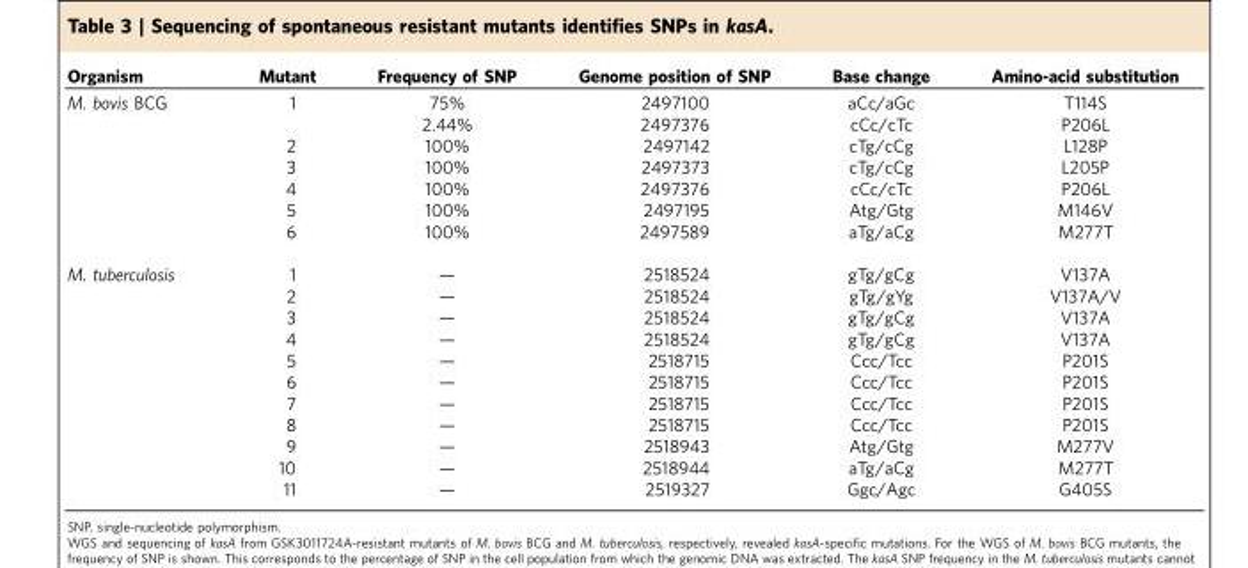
<table><thead><tr><td>Organism</td><td>Mutant</td><td>Frequency of SNP</td><td>Genome position of SNP</td><td>Base change</td><td>Amino-acid substitution</td></tr></thead><tbody><tr><td rowspan="7">M. bovis BCG</td><td>1</td><td>75%</td><td>2497100</td><td>aCc/aGc</td><td>T114S</td></tr><tr><td></td><td>2.44%</td><td>2497376</td><td>cCc/cTc</td><td>P206L</td></tr><tr><td>2</td><td>100%</td><td>2497142</td><td>cTg/cCg</td><td>L128P</td></tr><tr><td>3</td><td>100%</td><td>2497373</td><td>cTg/cCg</td><td>L205P</td></tr><tr><td>4</td><td>100%</td><td>2497376</td><td>cCc/cTc</td><td>P206L</td></tr><tr><td>5</td><td>100%</td><td>2497195</td><td>Atg/Gtg</td><td>M146V</td></tr><tr><td>6</td><td>100%</td><td>2497589</td><td>aTg/aCg</td><td>M277T</td></tr><tr><td rowspan="11">M. tuberculosis</td><td>1</td><td>—</td><td>2518524</td><td>gTg/gCg</td><td>V137A</td></tr><tr><td>2</td><td>—</td><td>2518524</td><td>gTg/gYg</td><td>V137A/V</td></tr><tr><td>3</td><td>—</td><td>2518524</td><td>gTg/gCg</td><td>V137A</td></tr><tr><td>4</td><td>—</td><td>2518524</td><td>gTg/gCg</td><td>V137A</td></tr><tr><td>5</td><td>—</td><td>2518715</td><td>Ccc/Tcc</td><td>P201S</td></tr><tr><td>6</td><td>—</td><td>2518715</td><td>Ccc/Tcc</td><td>P201S</td></tr><tr><td>7</td><td>—</td><td>2518715</td><td>Ccc/Tcc</td><td>P201S</td></tr><tr><td>8</td><td>—</td><td>2518715</td><td>Ccc/Tcc</td><td>P201S</td></tr><tr><td>9</td><td>—</td><td>2518943</td><td>Atg/Gtg</td><td>M277V</td></tr><tr><td>10</td><td>—</td><td>2518944</td><td>aTg/aCg</td><td>M277T</td></tr><tr><td>11</td><td>—</td><td>2519327</td><td>Ggc/Agc</td><td>G405S</td></tr></tbody></table>